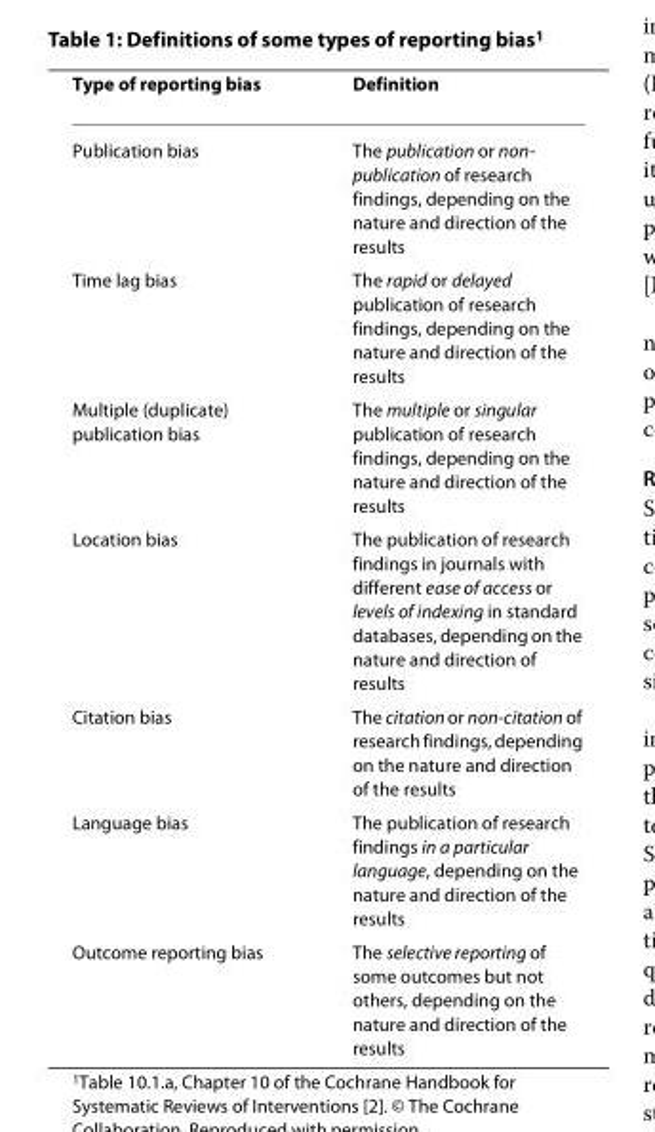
<table><thead><tr><td>Type of reporting bias</td><td>Definition</td></tr></thead><tbody><tr><td>Publication bias</td><td>The publication or non- publication of research findings, depending on the nature and direction of the results</td></tr><tr><td>Time lag bias</td><td>The rapid or delayed publication of research findings, depending on the nature and direction of the results</td></tr><tr><td>Multiple (duplicate) publication bias</td><td>The multiple or singular publication of research findings, depending on the nature and direction of the results</td></tr><tr><td>Location bias</td><td>The publication of research findings in journals with different ease of access or levels of indexing in standard databases, depending on the nature and direction of results</td></tr><tr><td>Citation bias</td><td>The citation or non-citation of research findings, depending on the nature and direction of the results</td></tr><tr><td>Language bias</td><td>The publication of research findings in a particular language, depending on the nature and direction of the results</td></tr><tr><td>Outcome reporting bias</td><td>The selective reporting of some outcomes but not others, depending on the nature and direction of the results</td></tr></tbody></table>